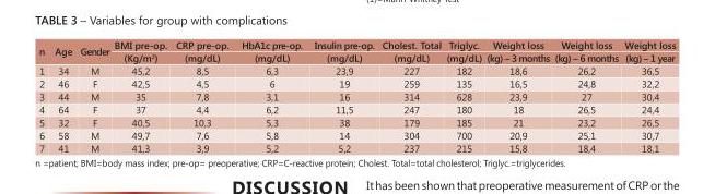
<table><thead><tr><td rowspan="2">n</td><td rowspan="2">Age</td><td rowspan="2">Gender</td><td rowspan="2">BMI pre-op. (Kg/m<sup>2</sup>)</td><td rowspan="2">CRP pre-op. (mg/dL)</td><td rowspan="2">HbA1c pre-op. (mg/dL)</td><td rowspan="2">Insulin pre-op. (mg/dL)</td><td rowspan="2">Cholest. Total (mg/dL)</td><td rowspan="2">Triglyc. (mg/dL)</td><td rowspan="2">Weight loss (kg) – 3 months</td><td rowspan="2">Weight loss (kg) – 6 months</td><td rowspan="2">Weight loss (kg) – 1 year</td></tr><tr></tr></thead><tbody><tr><td>1</td><td>34</td><td>M</td><td>45,2</td><td>8,5</td><td>6,3</td><td>23,9</td><td>227</td><td>182</td><td>18,6</td><td>26,2</td><td>36,5</td></tr><tr><td>2</td><td>46</td><td>F</td><td>42,5</td><td>4,5</td><td>6</td><td>19</td><td>259</td><td>135</td><td>16,5</td><td>24,8</td><td>32,2</td></tr><tr><td>3</td><td>44</td><td>M</td><td>35</td><td>7,8</td><td>3,1</td><td>16</td><td>314</td><td>628</td><td>23,9</td><td>27</td><td>30,4</td></tr><tr><td>4</td><td>64</td><td>F</td><td>37</td><td>4,4</td><td>6,2</td><td>11,5</td><td>247</td><td>180</td><td>18</td><td>26,5</td><td>24,4</td></tr><tr><td>5</td><td>32</td><td>F</td><td>40,5</td><td>10,3</td><td>5,3</td><td>38</td><td>179</td><td>185</td><td>21</td><td>23,2</td><td>26,5</td></tr><tr><td>6</td><td>58</td><td>M</td><td>49,7</td><td>7,6</td><td>5,8</td><td>14</td><td>304</td><td>700</td><td>20,9</td><td>25,1</td><td>30,7</td></tr><tr><td>7</td><td>41</td><td>M</td><td>41,3</td><td>3,9</td><td>5,2</td><td>5,2</td><td>237</td><td>215</td><td>15,8</td><td>18,4</td><td>18,1</td></tr></tbody></table>